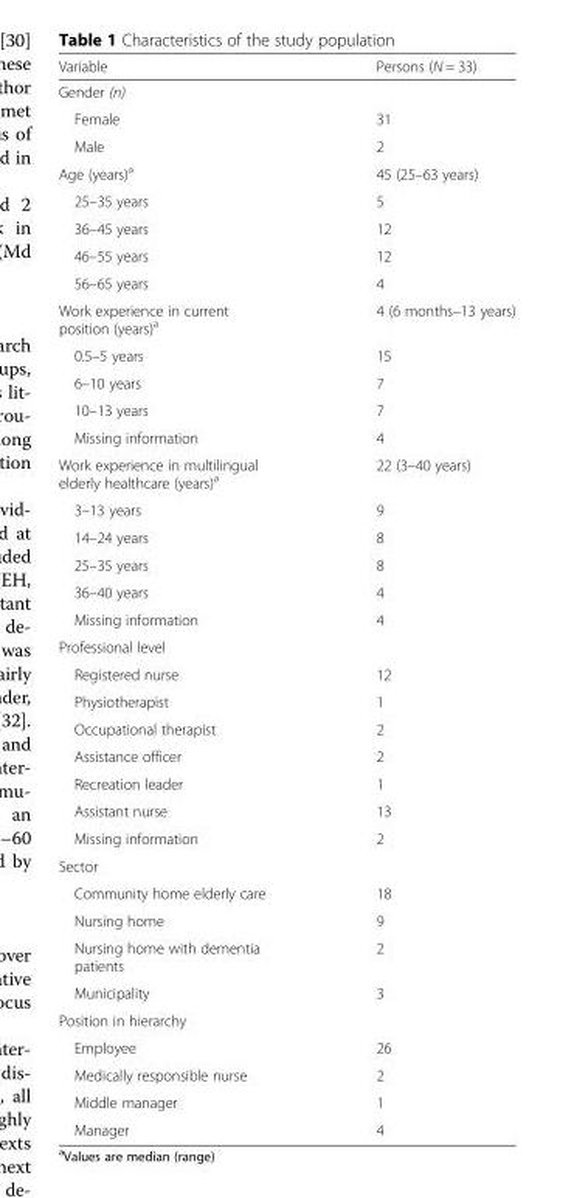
<table><thead><tr><td>Variable</td><td>Persons (N = 33)</td></tr></thead><tbody><tr><td colspan="2">Gender (n)</td></tr><tr><td>Female</td><td>31</td></tr><tr><td>Male</td><td>2</td></tr><tr><td>Age (years)<sup>a</sup></td><td>45 (25–63 years)</td></tr><tr><td>25–35 years</td><td>5</td></tr><tr><td>36–45 years</td><td>12</td></tr><tr><td>46–55 years</td><td>12</td></tr><tr><td>56–65 years</td><td>4</td></tr><tr><td>Work experience in current position (years)<sup>a</sup></td><td>4 (6 months–13 years)</td></tr><tr><td>0.5–5 years</td><td>15</td></tr><tr><td>6–10 years</td><td>7</td></tr><tr><td>10–13 years</td><td>7</td></tr><tr><td>Missing information</td><td>4</td></tr><tr><td>Work experience in multilingual elderly healthcare (years)<sup>a</sup></td><td>22 (3–40 years)</td></tr><tr><td>3–13 years</td><td>9</td></tr><tr><td>14–24 years</td><td>8</td></tr><tr><td>25–35 years</td><td>8</td></tr><tr><td>36–40 years</td><td>4</td></tr><tr><td>Missing information</td><td>4</td></tr><tr><td colspan="2">Professional level</td></tr><tr><td>Registered nurse</td><td>12</td></tr><tr><td>Physiotherapist</td><td>1</td></tr><tr><td>Occupational therapist</td><td>2</td></tr><tr><td>Assistance officer</td><td>2</td></tr><tr><td>Recreation leader</td><td>1</td></tr><tr><td>Assistant nurse</td><td>13</td></tr><tr><td>Missing information</td><td>2</td></tr><tr><td colspan="2">Sector</td></tr><tr><td>Community home elderly care</td><td>18</td></tr><tr><td>Nursing home</td><td>9</td></tr><tr><td>Nursing home with dementia patients</td><td>2</td></tr><tr><td>Municipality</td><td>3</td></tr><tr><td colspan="2">Position in hierarchy</td></tr><tr><td>Employee</td><td>26</td></tr><tr><td>Medically responsible nurse</td><td>2</td></tr><tr><td>Middle manager</td><td>1</td></tr><tr><td>Manager</td><td>4</td></tr></tbody></table>